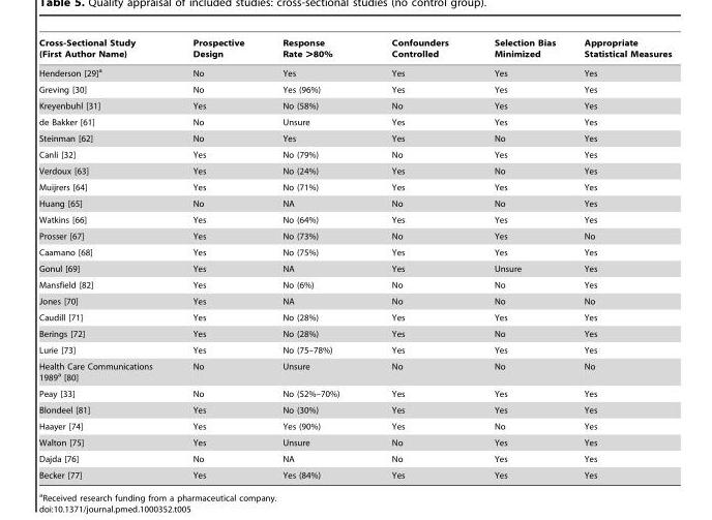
<table><thead><tr><td>Cross-Sectional Study (First Author Name)</td><td>Prospective Design</td><td>Response Rate &gt;80%</td><td>Confounders Controlled</td><td>Selection Bias Minimized</td><td>Appropriate Statistical Measures</td></tr></thead><tbody><tr><td>Henderson [29]a</td><td>No</td><td>Yes</td><td>Yes</td><td>Yes</td><td>Yes</td></tr><tr><td>Greving [30]</td><td>No</td><td>Yes (96%)</td><td>Yes</td><td>Yes</td><td>Yes</td></tr><tr><td>Kreyenbuhl [31]</td><td>Yes</td><td>No (58%)</td><td>No</td><td>Yes</td><td>Yes</td></tr><tr><td>de Bakker [61]</td><td>No</td><td>Unsure</td><td>Yes</td><td>Yes</td><td>Yes</td></tr><tr><td>Steinman [62]</td><td>No</td><td>Yes</td><td>Yes</td><td>No</td><td>Yes</td></tr><tr><td>Canli [32]</td><td>Yes</td><td>No (79%)</td><td>No</td><td>Yes</td><td>Yes</td></tr><tr><td>Verdoux [63]</td><td>Yes</td><td>No (24%)</td><td>Yes</td><td>No</td><td>Yes</td></tr><tr><td>Muijrers [64]</td><td>Yes</td><td>No (71%)</td><td>Yes</td><td>Yes</td><td>Yes</td></tr><tr><td>Huang [65]</td><td>No</td><td>NA</td><td>No</td><td>No</td><td>Yes</td></tr><tr><td>Watkins [66]</td><td>Yes</td><td>No (64%)</td><td>Yes</td><td>Yes</td><td>Yes</td></tr><tr><td>Prosser [67]</td><td>Yes</td><td>No (73%)</td><td>No</td><td>Yes</td><td>No</td></tr><tr><td>Caamano [68]</td><td>Yes</td><td>No (75%)</td><td>Yes</td><td>Yes</td><td>Yes</td></tr><tr><td>Gonul [69]</td><td>Yes</td><td>NA</td><td>Yes</td><td>Unsure</td><td>Yes</td></tr><tr><td>Mansfield [82]</td><td>Yes</td><td>No (6%)</td><td>No</td><td>No</td><td>Yes</td></tr><tr><td>Jones [70]</td><td>Yes</td><td>NA</td><td>No</td><td>No</td><td>No</td></tr><tr><td>Caudill [71]</td><td>Yes</td><td>No (28%)</td><td>Yes</td><td>Yes</td><td>Yes</td></tr><tr><td>Berings [72]</td><td>Yes</td><td>No (28%)</td><td>Yes</td><td>No</td><td>Yes</td></tr><tr><td>Lurie [73]</td><td>Yes</td><td>No (75–78%)</td><td>Yes</td><td>Yes</td><td>Yes</td></tr><tr><td>Health Care Communications 1989<sup>a</sup> [80]</td><td>No</td><td>Unsure</td><td>No</td><td>No</td><td>No</td></tr><tr><td>Peay [33]</td><td>No</td><td>No (52%–70%)</td><td>Yes</td><td>Yes</td><td>Yes</td></tr><tr><td>Blondeel [81]</td><td>Yes</td><td>No (30%)</td><td>Yes</td><td>Yes</td><td>Yes</td></tr><tr><td>Haayer [74]</td><td>Yes</td><td>Yes (90%)</td><td>Yes</td><td>No</td><td>Yes</td></tr><tr><td>Walton [75]</td><td>Yes</td><td>Unsure</td><td>No</td><td>Yes</td><td>Yes</td></tr><tr><td>Dajda [76]</td><td>No</td><td>NA</td><td>No</td><td>Yes</td><td>Yes</td></tr><tr><td>Becker [77]</td><td>Yes</td><td>Yes (84%)</td><td>Yes</td><td>Yes</td><td>Yes</td></tr></tbody></table>